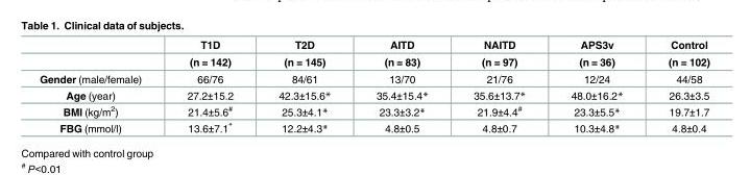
<table><thead><tr><td rowspan="2"></td><td rowspan="2">T1D (n = 142)</td><td rowspan="2">T2D (n = 145)</td><td rowspan="2">AITD (n = 83)</td><td rowspan="2">NAITD (n = 97)</td><td rowspan="2">APS3v (n = 36)</td><td rowspan="2">Control (n = 102)</td></tr><tr></tr></thead><tbody><tr><td>Gender (male/female)</td><td>66/76</td><td>84/61</td><td>13/70</td><td>21/76</td><td>12/24</td><td>44/58</td></tr><tr><td>Age (year)</td><td>27.2±15.2</td><td>42.3±15.6*</td><td>35.4±15.4*</td><td>35.6±13.7*</td><td>48.0±16.2*</td><td>26.3±3.5</td></tr><tr><td>BMI (kg/m<sup>2</sup>)</td><td>21.4±5.6<sup>#</sup></td><td>25.3±4.1*</td><td>23.3±3.2*</td><td>21.9±4.4<sup>#</sup></td><td>23.3±5.5*</td><td>19.7±1.7</td></tr><tr><td>FBG (mmol/l)</td><td>13.6±7.1*</td><td>12.2±4.3*</td><td>4.8±0.5</td><td>4.8±0.7</td><td>10.3±4.8*</td><td>4.8±0.4</td></tr></tbody></table>